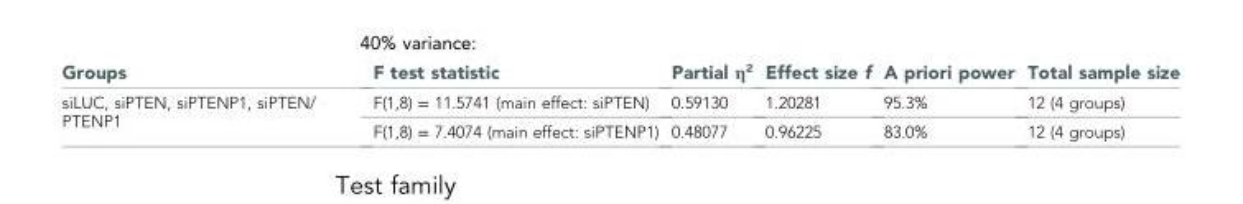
<table><thead><tr><td>Groups</td><td>F test statistic</td><td>Partial η<sup>2</sup></td><td>Effect size f</td><td>A priori power</td><td>Total sample size</td></tr></thead><tbody><tr><td rowspan="2">siLUC, siPTEN, siPTENP1, siPTEN/ PTENP1</td><td>F(1,8) = 11.5741 (main effect: siPTEN)</td><td>0.59130</td><td>1.20281</td><td>95.3%</td><td>12 (4 groups)</td></tr><tr><td>F(1,8) = 7.4074 (main effect: siPTENP1)</td><td>0.48077</td><td>0.96225</td><td>83.0%</td><td>12 (4 groups)</td></tr></tbody></table>